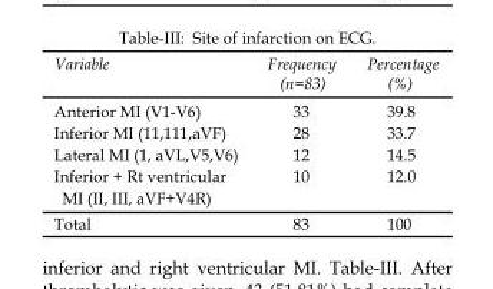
<table><thead><tr><td>Variable</td><td>Frequency (n=83)</td><td>Percentage (%)</td></tr></thead><tbody><tr><td>Anterior MI (V1-V6)</td><td>33</td><td>39.8</td></tr><tr><td>Inferior MI (11,111,aVF)</td><td>28</td><td>33.7</td></tr><tr><td>Lateral MI (1, aVL,V5,V6)</td><td>12</td><td>14.5</td></tr><tr><td>Inferior + Rt ventricular MI (II, III, aVF+V4R)</td><td>10</td><td>12.0</td></tr><tr><td>Total</td><td>83</td><td>100</td></tr></tbody></table>